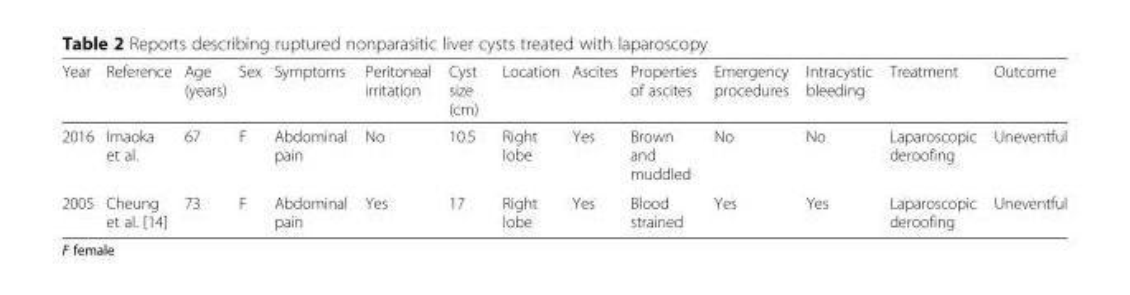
<table><thead><tr><td>Year</td><td>Reference</td><td>Age (years)</td><td>Sex</td><td>Symptoms</td><td>Peritoneal irritation</td><td>Cyst size (cm)</td><td>Location</td><td>Ascites</td><td>Properties of ascites</td><td>Emergency procedures</td><td>Intracystic bleeding</td><td>Treatment</td><td>Outcome</td></tr></thead><tbody><tr><td>2016</td><td>Imaoka et al.</td><td>67</td><td>F</td><td>Abdominal pain</td><td>No</td><td>10.5</td><td>Right lobe</td><td>Yes</td><td>Brown and muddled</td><td>No</td><td>No</td><td>Laparoscopic deroofing</td><td>Uneventful</td></tr><tr><td>2005</td><td>Cheung et al. [14]</td><td>73</td><td>F</td><td>Abdominal pain</td><td>Yes</td><td>17</td><td>Right lobe</td><td>Yes</td><td>Blood strained</td><td>Yes</td><td>Yes</td><td>Laparoscopic deroofing</td><td>Uneventful</td></tr></tbody></table>